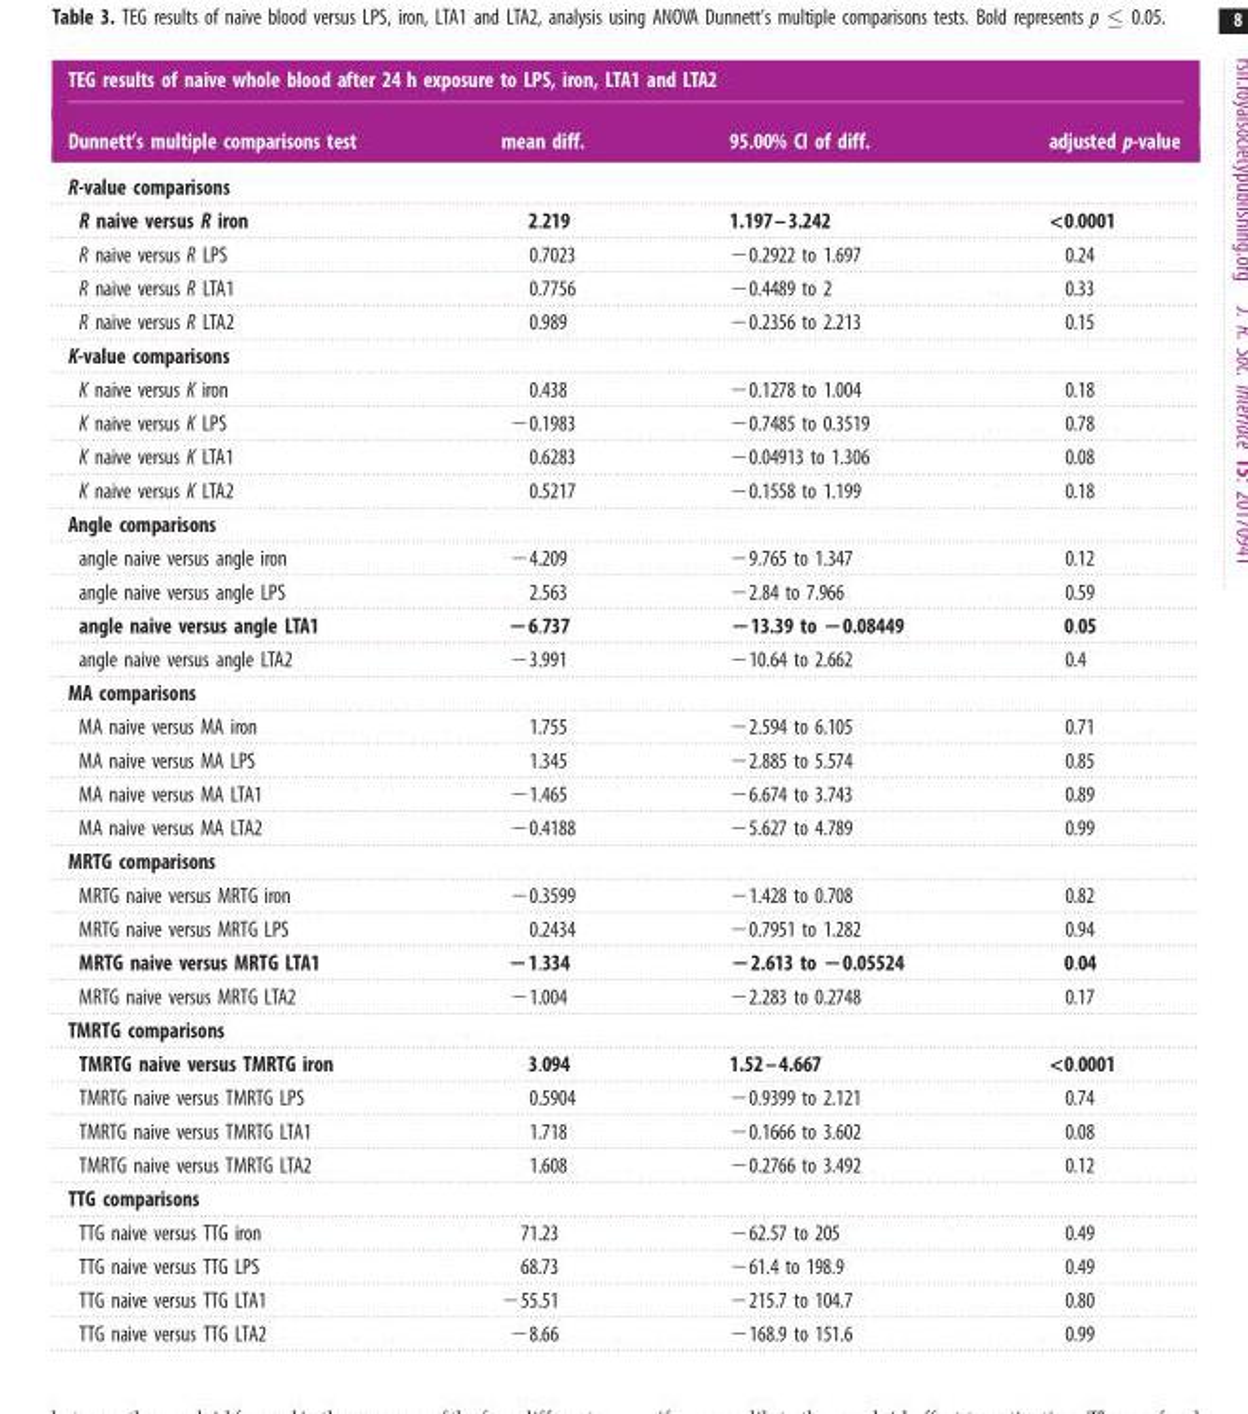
<table><thead><tr><td colspan="4">TEG results of naive whole blood after 24 h exposure to LPS, iron, LTA1 and LTA2</td></tr><tr><td>Dunnett’s multiple comparisons test</td><td>mean diff.</td><td>95.00% CI of diff.</td><td>adjusted p-value</td></tr></thead><tbody><tr><td colspan="4">R-value comparisons</td></tr><tr><td>R naive versus R iron</td><td>2.219</td><td>1.197–3.242</td><td>&lt;0.0001</td></tr><tr><td>R naive versus R LPS</td><td>0.7023</td><td>−0.2922 to 1.697</td><td>0.24</td></tr><tr><td>R naive versus R LTA1</td><td>0.7756</td><td>−0.4489 to 2</td><td>0.33</td></tr><tr><td>R naive versus R LTA2</td><td>0.989</td><td>−0.2356 to 2.213</td><td>0.15</td></tr><tr><td colspan="4">K-value comparisons</td></tr><tr><td>K naive versus K iron</td><td>0.438</td><td>−0.1278 to 1.004</td><td>0.18</td></tr><tr><td>K naive versus K LPS</td><td>−0.1983</td><td>−0.7485 to 0.3519</td><td>0.78</td></tr><tr><td>K naive versus K LTA1</td><td>0.6283</td><td>−0.04913 to 1.306</td><td>0.08</td></tr><tr><td>K naive versus K LTA2</td><td>0.5217</td><td>−0.1558 to 1.199</td><td>0.18</td></tr><tr><td colspan="4">Angle comparisons</td></tr><tr><td>angle naive versus angle iron</td><td>−4.209</td><td>−9.765 to 1.347</td><td>0.12</td></tr><tr><td>angle naive versus angle LPS</td><td>2.563</td><td>−2.84 to 7.966</td><td>0.59</td></tr><tr><td>angle naive versus angle LTA1</td><td>−6.737</td><td>−13.39 to −0.08449</td><td>0.05</td></tr><tr><td>angle naive versus angle LTA2</td><td>−3.991</td><td>−10.64 to 2.662</td><td>0.4</td></tr><tr><td colspan="4">MA comparisons</td></tr><tr><td>MA naive versus MA iron</td><td>1.755</td><td>−2.594 to 6.105</td><td>0.71</td></tr><tr><td>MA naive versus MA LPS</td><td>1.345</td><td>−2.885 to 5.574</td><td>0.85</td></tr><tr><td>MA naive versus MA LTA1</td><td>−1.465</td><td>−6.674 to 3.743</td><td>0.89</td></tr><tr><td>MA naive versus MA LTA2</td><td>−0.4188</td><td>−5.627 to 4.789</td><td>0.99</td></tr><tr><td colspan="4">MRTG comparisons</td></tr><tr><td>MRTG naive versus MRTG iron</td><td>−0.3599</td><td>−1.428 to 0.708</td><td>0.82</td></tr><tr><td>MRTG naive versus MRTG LPS</td><td>0.2434</td><td>−0.7951 to 1.282</td><td>0.94</td></tr><tr><td>MRTG naive versus MRTG LTA1</td><td>−1.334</td><td>−2.613 to −0.05524</td><td>0.04</td></tr><tr><td>MRTG naive versus MRTG LTA2</td><td>−1.004</td><td>−2.283 to 0.2748</td><td>0.17</td></tr><tr><td colspan="4">TMRTG comparisons</td></tr><tr><td>TMRTG naive versus TMRTG iron</td><td>3.094</td><td>1.52–4.667</td><td>&lt;0.0001</td></tr><tr><td>TMRTG naive versus TMRTG LPS</td><td>0.5904</td><td>−0.9399 to 2.121</td><td>0.74</td></tr><tr><td>TMRTG naive versus TMRTG LTA1</td><td>1.718</td><td>−0.1666 to 3.602</td><td>0.08</td></tr><tr><td>TMRTG naive versus TMRTG LTA2</td><td>1.608</td><td>−0.2766 to 3.492</td><td>0.12</td></tr><tr><td colspan="4">TTG comparisons</td></tr><tr><td>TTG naive versus TTG iron</td><td>71.23</td><td>−62.57 to 205</td><td>0.49</td></tr><tr><td>TTG naive versus TTG LPS</td><td>68.73</td><td>−61.4 to 198.9</td><td>0.49</td></tr><tr><td>TTG naive versus TTG LTA1</td><td>−55.51</td><td>−215.7 to 104.7</td><td>0.80</td></tr><tr><td>TTG naive versus TTG LTA2</td><td>−8.66</td><td>−168.9 to 151.6</td><td>0.99</td></tr></tbody></table>